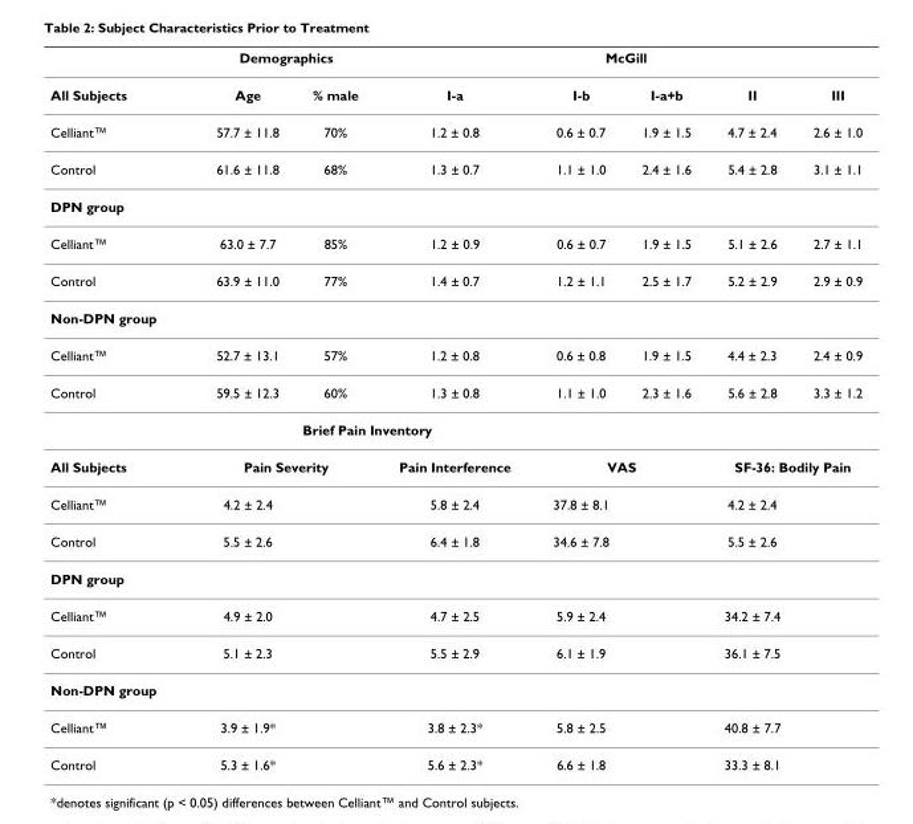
<table><thead><tr><td rowspan="2">All Subjects</td><td colspan="2">Demographics</td><td colspan="5">McGill</td></tr><tr><td>Age</td><td>% male</td><td>I-a</td><td>I-b</td><td>I-a+b</td><td>II</td><td>III</td></tr></thead><tbody><tr><td>Celliant™</td><td>57.7 ± 11.8</td><td>70%</td><td>1.2 ± 0.8</td><td>0.6 ± 0.7</td><td>1.9 ± 1.5</td><td>4.7 ± 2.4</td><td>2.6 ± 1.0</td></tr><tr><td>Control</td><td>61.6 ± 11.8</td><td>68%</td><td>1.3 ± 0.7</td><td>1.1 ± 1.0</td><td>2.4 ± 1.6</td><td>5.4 ± 2.8</td><td>3.1 ± 1.1</td></tr><tr><td colspan="8">DPN group</td></tr><tr><td>Celliant™</td><td>63.0 ± 7.7</td><td>85%</td><td>1.2 ± 0.9</td><td>0.6 ± 0.7</td><td>1.9 ± 1.5</td><td>5.1 ± 2.6</td><td>2.7 ± 1.1</td></tr><tr><td>Control</td><td>63.9 ± 11.0</td><td>77%</td><td>1.4 ± 0.7</td><td>1.2 ± 1.1</td><td>2.5 ± 1.7</td><td>5.2 ± 2.9</td><td>2.9 ± 0.9</td></tr><tr><td colspan="8">Non-DPN group</td></tr><tr><td>Celliant™</td><td>52.7 ± 13.1</td><td>57%</td><td>1.2 ± 0.8</td><td>0.6 ± 0.8</td><td>1.9 ± 1.5</td><td>4.4 ± 2.3</td><td>2.4 ± 0.9</td></tr><tr><td rowspan="2">Control</td><td>59.5 ± 12.3</td><td>60%</td><td>1.3 ± 0.8</td><td>1.1 ± 1.0</td><td>2.3 ± 1.6</td><td>5.6 ± 2.8</td><td>3.3 ± 1.2</td></tr><tr><td colspan="3">Brief Pain Inventory</td><td></td><td></td><td></td><td></td></tr><tr><td>All Subjects</td><td colspan="2">Pain Severity</td><td>Pain Interference</td><td colspan="2">VAS</td><td colspan="2">SF-36: Bodily Pain</td></tr><tr><td>Celliant™</td><td>4.2 ± 2.4</td><td></td><td>5.8 ± 2.4</td><td>37.8 ± 8.1</td><td></td><td>4.2 ± 2.4</td><td></td></tr><tr><td>Control</td><td>5.5 ± 2.6</td><td></td><td>6.4 ± 1.8</td><td>34.6 ± 7.8</td><td></td><td>5.5 ± 2.6</td><td></td></tr><tr><td colspan="8">DPN group</td></tr><tr><td>Celliant™</td><td>4.9 ± 2.0</td><td></td><td>4.7 ± 2.5</td><td>5.9 ± 2.4</td><td></td><td>34.2 ± 7.4</td><td></td></tr><tr><td>Control</td><td>5.1 ± 2.3</td><td></td><td>5.5 ± 2.9</td><td>6.1 ± 1.9</td><td></td><td>36.1 ± 7.5</td><td></td></tr><tr><td colspan="8">Non-DPN group</td></tr><tr><td>Celliant™</td><td>3.9 ± 1.9*</td><td></td><td>3.8 ± 2.3*</td><td>5.8 ± 2.5</td><td></td><td>40.8 ± 7.7</td><td></td></tr><tr><td>Control</td><td>5.3 ± 1.6*</td><td></td><td>5.6 ± 2.3*</td><td>6.6 ± 1.8</td><td></td><td>33.3 ± 8.1</td><td></td></tr></tbody></table>